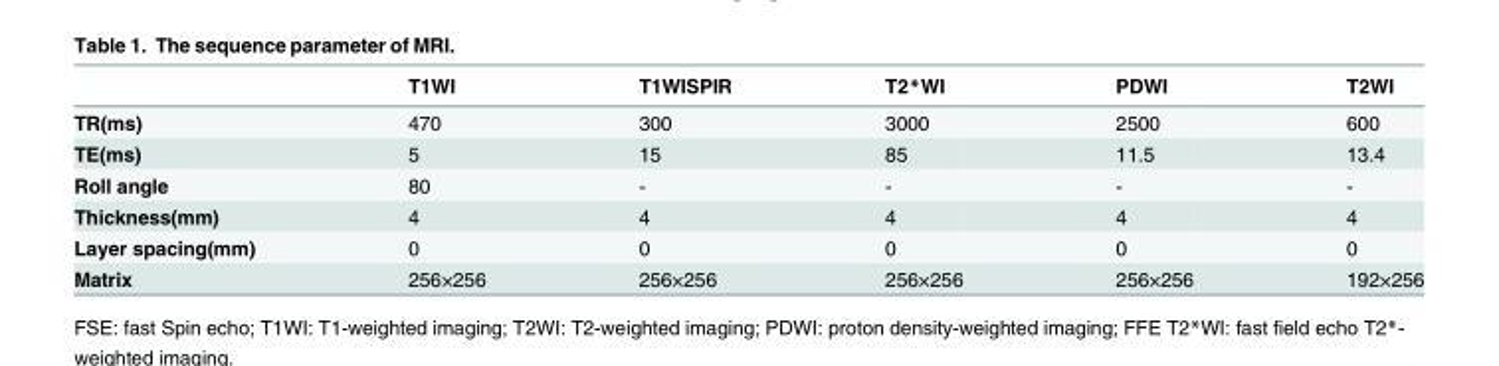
<table><thead><tr><td></td><td>T1WI</td><td>T1WISPIR</td><td>T2*WI</td><td>PDWI</td><td>T2WI</td></tr></thead><tbody><tr><td>TR(ms)</td><td>470</td><td>300</td><td>3000</td><td>2500</td><td>600</td></tr><tr><td>TE(ms)</td><td>5</td><td>15</td><td>85</td><td>11.5</td><td>13.4</td></tr><tr><td>Roll angle</td><td>80</td><td>-</td><td>-</td><td>-</td><td>-</td></tr><tr><td>Thickness(mm)</td><td>4</td><td>4</td><td>4</td><td>4</td><td>4</td></tr><tr><td>Layer spacing(mm)</td><td>0</td><td>0</td><td>0</td><td>0</td><td>0</td></tr><tr><td>Matrix</td><td>256×256</td><td>256×256</td><td>256×256</td><td>256×256</td><td>192×256</td></tr></tbody></table>